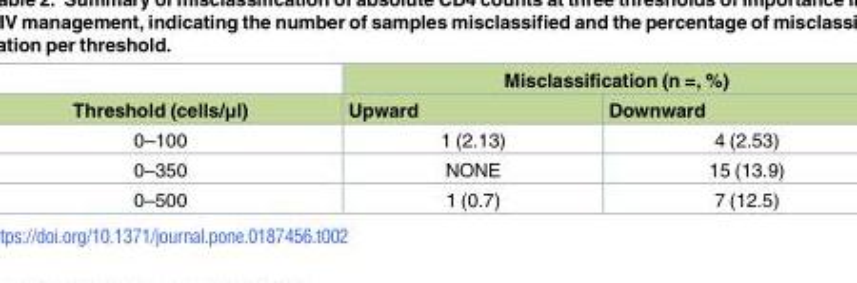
<table><thead><tr><td rowspan="2">Threshold (cells/μl)</td><td colspan="2">Misclassification (n =, %)</td></tr><tr><td>Upward</td><td>Downward</td></tr></thead><tbody><tr><td>0–100</td><td>1 (2.13)</td><td>4 (2.53)</td></tr><tr><td>0–350</td><td>NONE</td><td>15 (13.9)</td></tr><tr><td>0–500</td><td>1 (0.7)</td><td>7 (12.5)</td></tr></tbody></table>